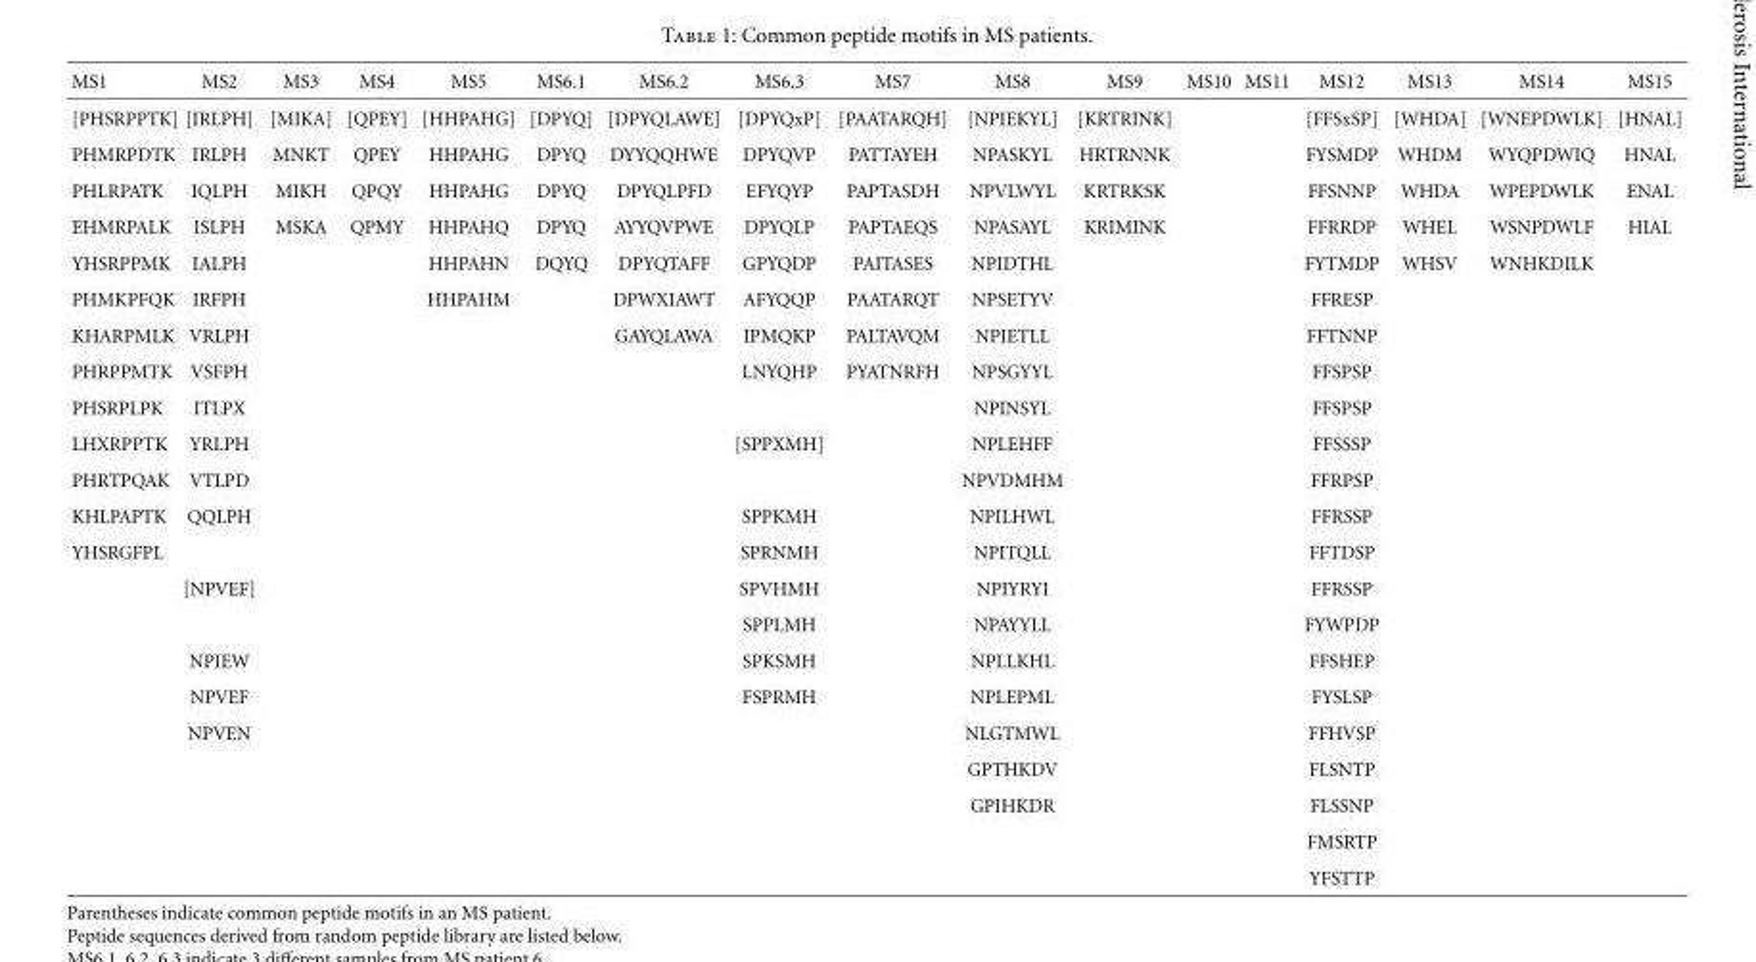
<table><thead><tr><td>MS1</td><td>MS2</td><td>MS3</td><td>MS4</td><td>MS5</td><td>MS6.1</td><td>MS6.2</td><td>MS6.3</td><td>MS7</td><td>MS8</td><td>MS9</td><td>MS10</td><td>MS11</td><td>MS12</td><td>MS13</td><td>MS14</td><td>MS15</td></tr></thead><tbody><tr><td>[PHSRPPTK]</td><td>[IRLPH]</td><td>[MIKA]</td><td>[QPEY]</td><td>[HHPAHG]</td><td>[DPYQ]</td><td>[DPYQLAWE]</td><td>[DPYQxP]</td><td>[PAATARQH]</td><td>[NPIEKYL]</td><td>[KRTRINK]</td><td></td><td></td><td>[FFSxSP]</td><td>[WHDA]</td><td>[WNEPDWLK]</td><td>[HNAL]</td></tr><tr><td>PHMRPDTK</td><td>IRLPH</td><td>MNKT</td><td>QPEY</td><td>HHPAHG</td><td>DPYQ</td><td>DYYQQHWE</td><td>DPYQVP</td><td>PATTAYEH</td><td>NPASKYL</td><td>HRTRNNK</td><td></td><td></td><td>FYSMDP</td><td>WHDM</td><td>WYQPDWIQ</td><td>HNAL</td></tr><tr><td>PHLRPATK</td><td>IQLPH</td><td>MIKH</td><td>QPQY</td><td>HHPAHG</td><td>DPYQ</td><td>DPYQLPFD</td><td>EFYQYP</td><td>PAPTASDH</td><td>NPVLWYL</td><td>KRTRKSK</td><td></td><td></td><td>FFSNNP</td><td>WHDA</td><td>WPEPDWLK</td><td>ENAL</td></tr><tr><td>EHMRPALK</td><td>ISLPH</td><td>MSKA</td><td>QPMY</td><td>HHPAHQ</td><td>DPYQ</td><td>AYYQVPWE</td><td>DPYQLP</td><td>PAPTAEQS</td><td>NPASAYL</td><td>KRIMINK</td><td></td><td></td><td>FFRRDP</td><td>WHEL</td><td>WSNPDWLF</td><td>HIAL</td></tr><tr><td>YHSRPPMK</td><td>IALPH</td><td></td><td></td><td>HHPAHN</td><td>DQYQ</td><td>DPYQTAFF</td><td>GPYQDP</td><td>PAITASES</td><td>NPIDTHL</td><td></td><td></td><td></td><td>FYTMDP</td><td>WHSV</td><td>WNHKDILK</td><td></td></tr><tr><td>PHMKPFQK</td><td>IRFPH</td><td></td><td></td><td>HHPAHM</td><td></td><td>DPWXIAWT</td><td>AFYQQP</td><td>PAATARQT</td><td>NPSETYV</td><td></td><td></td><td></td><td>FFRESP</td><td></td><td></td><td></td></tr><tr><td>KHARPMLK</td><td>VRLPH</td><td></td><td></td><td></td><td></td><td>GAYQLAWA</td><td>IPMQKP</td><td>PALTAVQM</td><td>NPIETLL</td><td></td><td></td><td></td><td>FFTNNP</td><td></td><td></td><td></td></tr><tr><td>PHRPPMTK</td><td>VSFPH</td><td></td><td></td><td></td><td></td><td></td><td>LNYQHP</td><td>PYATNRFH</td><td>NPSGYYL</td><td></td><td></td><td></td><td>FFSPSP</td><td></td><td></td><td></td></tr><tr><td>PHSRPLPK</td><td>ITLPX</td><td></td><td></td><td></td><td></td><td></td><td></td><td></td><td>NPINSYL</td><td></td><td></td><td></td><td>FFSPSP</td><td></td><td></td><td></td></tr><tr><td>LHXRPPTK</td><td>YRLPH</td><td></td><td></td><td></td><td></td><td></td><td>[SPPXMH]</td><td></td><td>NPLEHFF</td><td></td><td></td><td></td><td>FFSSSP</td><td></td><td></td><td></td></tr><tr><td>PHRTPQAK</td><td>VTLPD</td><td></td><td></td><td></td><td></td><td></td><td></td><td></td><td>NPVDMHM</td><td></td><td></td><td></td><td>FFRPSP</td><td></td><td></td><td></td></tr><tr><td>KHLPAPTK</td><td>QQLPH</td><td></td><td></td><td></td><td></td><td></td><td>SPPKMH</td><td></td><td>NPILHWL</td><td></td><td></td><td></td><td>FFRSSP</td><td></td><td></td><td></td></tr><tr><td rowspan="10">YHSRGFPL</td><td></td><td></td><td></td><td></td><td></td><td></td><td>SPRNMH</td><td></td><td>NPITQLL</td><td></td><td></td><td></td><td>FFTDSP</td><td></td><td></td><td></td></tr><tr><td>[NPVEF]</td><td></td><td></td><td></td><td></td><td></td><td>SPVHMH</td><td></td><td>NPIYRYI</td><td></td><td></td><td></td><td>FFRSSP</td><td></td><td></td><td></td></tr><tr><td></td><td></td><td></td><td></td><td></td><td></td><td>SPPLMH</td><td></td><td>NPAYYLL</td><td></td><td></td><td></td><td>FYWPDP</td><td></td><td></td><td></td></tr><tr><td>NPIEW</td><td></td><td></td><td></td><td></td><td></td><td>SPKSMH</td><td></td><td>NPLLKHL</td><td></td><td></td><td></td><td>FFSHEP</td><td></td><td></td><td></td></tr><tr><td>NPVEF</td><td></td><td></td><td></td><td></td><td></td><td>FSPRMH</td><td></td><td>NPLEPML</td><td></td><td></td><td></td><td>FYSLSP</td><td></td><td></td><td></td></tr><tr><td>NPVEN</td><td></td><td></td><td></td><td></td><td></td><td></td><td></td><td>NLGTMWL</td><td></td><td></td><td></td><td>FFHVSP</td><td></td><td></td><td></td></tr><tr><td></td><td></td><td></td><td></td><td></td><td></td><td></td><td></td><td>GPTHKDV</td><td></td><td></td><td></td><td>FLSNTP</td><td></td><td></td><td></td></tr><tr><td></td><td></td><td></td><td></td><td></td><td></td><td></td><td></td><td>GPIHKDR</td><td></td><td></td><td></td><td>FLSSNP</td><td></td><td></td><td></td></tr><tr><td></td><td></td><td></td><td></td><td></td><td></td><td></td><td></td><td></td><td></td><td></td><td></td><td>FMSRTP</td><td></td><td></td><td></td></tr><tr><td></td><td></td><td></td><td></td><td></td><td></td><td></td><td></td><td></td><td></td><td></td><td></td><td>YFSTTP</td><td></td><td></td><td></td></tr></tbody></table>